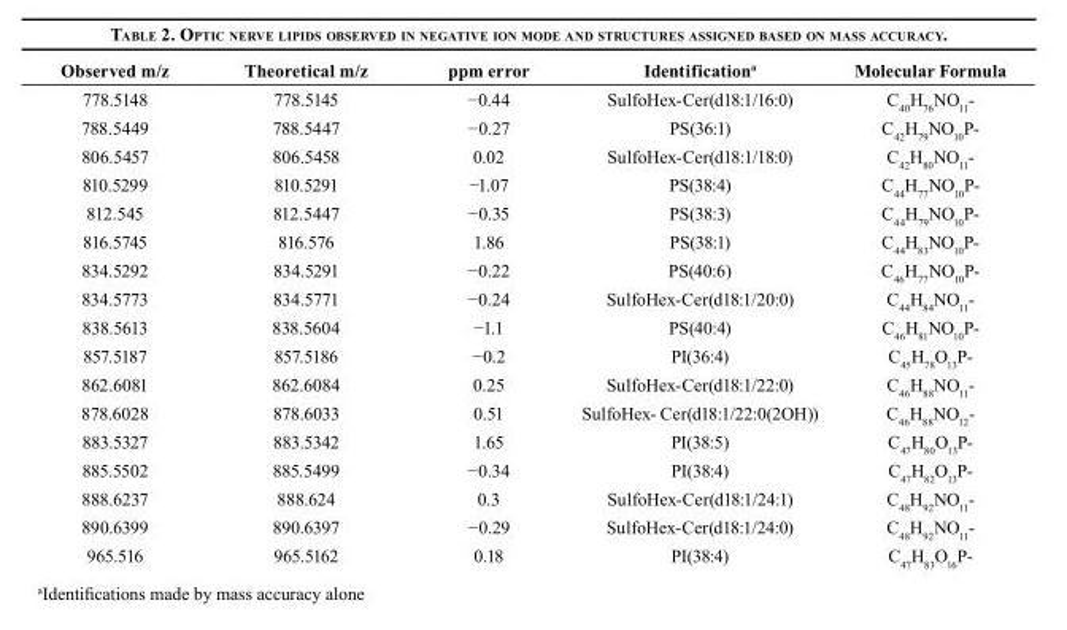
<table><thead><tr><td>Observed m/z</td><td>Theoretical m/z</td><td>ppm error</td><td>Identification<sup>a</sup></td><td>Molecular Formula</td></tr></thead><tbody><tr><td>778.5148</td><td>778.5145</td><td>−0.44</td><td>SulfoHex-Cer(d18:1/16:0)</td><td>C<sub>40</sub>H<sub>76</sub>NO<sub>11</sub>-</td></tr><tr><td>788.5449</td><td>788.5447</td><td>−0.27</td><td>PS(36:1)</td><td>C<sub>42</sub>H<sub>79</sub>NO<sub>10</sub>P-</td></tr><tr><td>806.5457</td><td>806.5458</td><td>0.02</td><td>SulfoHex-Cer(d18:1/18:0)</td><td>C<sub>42</sub>H<sub>80</sub>NO<sub>11</sub>-</td></tr><tr><td>810.5299</td><td>810.5291</td><td>−1.07</td><td>PS(38:4)</td><td>C<sub>44</sub>H<sub>77</sub>NO<sub>10</sub>P-</td></tr><tr><td>812.545</td><td>812.5447</td><td>−0.35</td><td>PS(38:3)</td><td>C<sub>44</sub>H<sub>79</sub>NO<sub>10</sub>P-</td></tr><tr><td>816.5745</td><td>816.576</td><td>1.86</td><td>PS(38:1)</td><td>C<sub>44</sub>H<sub>83</sub>NO<sub>10</sub>P-</td></tr><tr><td>834.5292</td><td>834.5291</td><td>−0.22</td><td>PS(40:6)</td><td>C<sub>46</sub>H<sub>77</sub>NO<sub>10</sub>P-</td></tr><tr><td>834.5773</td><td>834.5771</td><td>−0.24</td><td>SulfoHex-Cer(d18:1/20:0)</td><td>C<sub>44</sub>H<sub>84</sub>NO<sub>11</sub>-</td></tr><tr><td>838.5613</td><td>838.5604</td><td>−1.1</td><td>PS(40:4)</td><td>C<sub>46</sub>H<sub>81</sub>NO<sub>10</sub>P-</td></tr><tr><td>857.5187</td><td>857.5186</td><td>−0.2</td><td>PI(36:4)</td><td>C<sub>45</sub>H<sub>78</sub>O<sub>13</sub>P-</td></tr><tr><td>862.6081</td><td>862.6084</td><td>0.25</td><td>SulfoHex-Cer(d18:1/22:0)</td><td>C<sub>46</sub>H<sub>88</sub>NO<sub>11</sub>-</td></tr><tr><td>878.6028</td><td>878.6033</td><td>0.51</td><td>SulfoHex- Cer(d18:1/22:0(2OH))</td><td>C<sub>46</sub>H<sub>88</sub>NO<sub>12</sub>-</td></tr><tr><td>883.5327</td><td>883.5342</td><td>1.65</td><td>PI(38:5)</td><td>C<sub>47</sub>H<sub>80</sub>O<sub>13</sub>P-</td></tr><tr><td>885.5502</td><td>885.5499</td><td>−0.34</td><td>PI(38:4)</td><td>C<sub>47</sub>H<sub>82</sub>O<sub>13</sub>P-</td></tr><tr><td>888.6237</td><td>888.624</td><td>0.3</td><td>SulfoHex-Cer(d18:1/24:1)</td><td>C<sub>48</sub>H<sub>92</sub>NO<sub>11</sub>-</td></tr><tr><td>890.6399</td><td>890.6397</td><td>−0.29</td><td>SulfoHex-Cer(d18:1/24:0)</td><td>C<sub>48</sub>H<sub>92</sub>NO<sub>11</sub>-</td></tr><tr><td>965.516</td><td>965.5162</td><td>0.18</td><td>PI(38:4)</td><td>C<sub>47</sub>H<sub>83</sub>O<sub>16</sub>P-</td></tr></tbody></table>